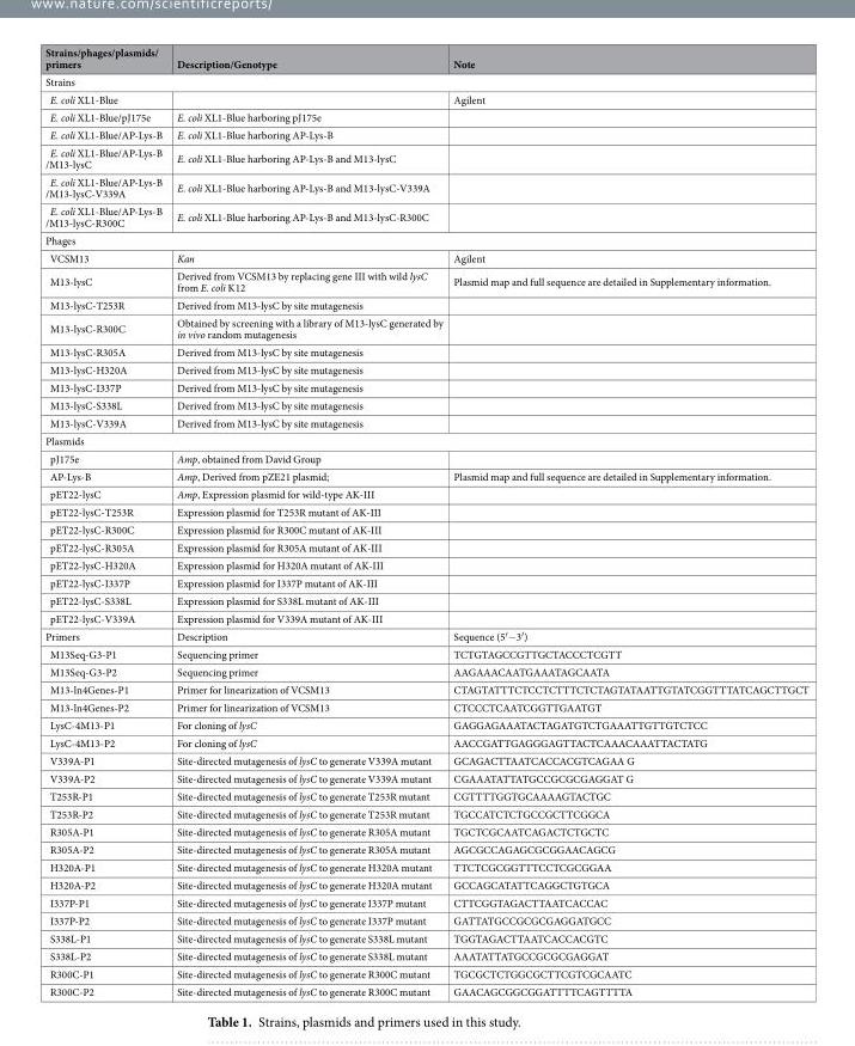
<table><thead><tr><td>Strains/phages/plasmids/ primers</td><td>Description/Genotype</td><td>Note</td></tr></thead><tbody><tr><td colspan="3">Strains</td></tr><tr><td>E. coli XL1-Blue</td><td></td><td>Agilent</td></tr><tr><td>E. coli XL1-Blue/pJ175e</td><td>E. coli XL1-Blue harboring pJ175e</td><td></td></tr><tr><td>E. coli XL1-Blue/AP-Lys-B</td><td>E. coli XL1-Blue harboring AP-Lys-B</td><td></td></tr><tr><td>E. coli XL1-Blue/AP-Lys-B /M13-lysC</td><td>E. coli XL1-Blue harboring AP-Lys-B and M13-lysC</td><td></td></tr><tr><td>E. coli XL1-Blue/AP-Lys-B /M13-lysC-V339A</td><td>E. coli XL1-Blue harboring AP-Lys-B and M13-lysC-V339A</td><td></td></tr><tr><td>E. coli XL1-Blue/AP-Lys-B /M13-lysC-R300C</td><td>E. coli XL1-Blue harboring AP-Lys-B and M13-lysC-R300C</td><td></td></tr><tr><td colspan="3">Phages</td></tr><tr><td>VCSM13</td><td>Kan</td><td>Agilent</td></tr><tr><td>M13-lysC</td><td>Derived from VCSM13 by replacing gene III with wild lysC from E. coli K12</td><td>Plasmid map and full sequence are detailed in Supplementary information.</td></tr><tr><td>M13-lysC-T253R</td><td>Derived from M13-lysC by site mutagenesis</td><td></td></tr><tr><td>M13-lysC-R300C</td><td>Obtained by screening with a library of M13-lysC generated by in vivo random mutagenesis</td><td></td></tr><tr><td>M13-lysC-R305A</td><td>Derived from M13-lysC by site mutagenesis</td><td></td></tr><tr><td>M13-lysC-H320A</td><td>Derived from M13-lysC by site mutagenesis</td><td></td></tr><tr><td>M13-lysC-I337P</td><td>Derived from M13-lysC by site mutagenesis</td><td></td></tr><tr><td>M13-lysC-S338L</td><td>Derived from M13-lysC by site mutagenesis</td><td></td></tr><tr><td>M13-lysC-V339A</td><td>Derived from M13-lysC by site mutagenesis</td><td></td></tr><tr><td colspan="3">Plasmids</td></tr><tr><td>pJ175e</td><td>Amp, obtained from David Group</td><td></td></tr><tr><td>AP-Lys-B</td><td>Amp, Derived from pZE21 plasmid;</td><td>Plasmid map and full sequence are detailed in Supplementary information.</td></tr><tr><td>pET22-lysC</td><td>Amp, Expression plasmid for wild-type AK-III</td><td></td></tr><tr><td>pET22-lysC-T253R</td><td>Expression plasmid for T253R mutant of AK-III</td><td></td></tr><tr><td>pET22-lysC-R300C</td><td>Expression plasmid for R300C mutant of AK-III</td><td></td></tr><tr><td>pET22-lysC-R305A</td><td>Expression plasmid for R305A mutant of AK-III</td><td></td></tr><tr><td>pET22-lysC-H320A</td><td>Expression plasmid for H320A mutant of AK-III</td><td></td></tr><tr><td>pET22-lysC-I337P</td><td>Expression plasmid for I337P mutant of AK-III</td><td></td></tr><tr><td>pET22-lysC-S338L</td><td>Expression plasmid for S338L mutant of AK-III</td><td></td></tr><tr><td>pET22-lysC-V339A</td><td>Expression plasmid for V339A mutant of AK-III</td><td></td></tr><tr><td>Primers</td><td>Description</td><td>Sequence (5′−3′)</td></tr><tr><td>M13Seq-G3-P1</td><td>Sequencing primer</td><td>TCTGTAGCCGTTGCTACCCTCGTT</td></tr><tr><td>M13Seq-G3-P2</td><td>Sequencing primer</td><td>AAGAAACAATGAAATAGCAATA</td></tr><tr><td>M13-ln4Genes-P1</td><td>Primer for linearization of VCSM13</td><td>CTAGTATTTCTCCTCTTTCTCTAGTATAATTGTATCGGTTTATCAGCTTGCT</td></tr><tr><td>M13-ln4Genes-P2</td><td>Primer for linearization of VCSM13</td><td>CTCCCTCAATCGGTTGAATGT</td></tr><tr><td>LysC-4M13-P1</td><td>For cloning of lysC</td><td>GAGGAGAAATACTAGATGTCTGAAATTGTTGTCTCC</td></tr><tr><td>LysC-4M13-P2</td><td>For cloning of lysC</td><td>AACCGATTGAGGGAGTTACTCAAACAAATTACTATG</td></tr><tr><td>V339A-P1</td><td>Site-directed mutagenesis of lysC to generate V339A mutant</td><td>GCAGACTTAATCACCACGTCAGAA G</td></tr><tr><td>V339A-P2</td><td>Site-directed mutagenesis of lysC to generate V339A mutant</td><td>CGAAATATTATGCCGCGCGAGGAT G</td></tr><tr><td>T253R-P1</td><td>Site-directed mutagenesis of lysC to generate T253R mutant</td><td>CGTTTTGGTGCAAAAGTACTGC</td></tr><tr><td>T253R-P2</td><td>Site-directed mutagenesis of lysC to generate T253R mutant</td><td>TGCCATCTCTGCCGCTTCGGCA</td></tr><tr><td>R305A-P1</td><td>Site-directed mutagenesis of lysC to generate R305A mutant</td><td>TGCTCGCAATCAGACTCTGCTC</td></tr><tr><td>R305A-P2</td><td>Site-directed mutagenesis of lysC to generate R305A mutant</td><td>AGCGCCAGAGCGCGGAACAGCG</td></tr><tr><td>H320A-P1</td><td>Site-directed mutagenesis of lysC to generate H320A mutant</td><td>TTCTCGCGGTTTCCTCGCGGAA</td></tr><tr><td>H320A-P2</td><td>Site-directed mutagenesis of lysC to generate H320A mutant</td><td>GCCAGCATATTCAGGCTGTGCA</td></tr><tr><td>I337P-P1</td><td>Site-directed mutagenesis of lysC to generate I337P mutant</td><td>CTTCGGTAGACTTAATCACCAC</td></tr><tr><td>I337P-P2</td><td>Site-directed mutagenesis of lysC to generate I337P mutant</td><td>GATTATGCCGCGCGAGGATGCC</td></tr><tr><td>S338L-P1</td><td>Site-directed mutagenesis of lysC to generate S338L mutant</td><td>TGGTAGACTTAATCACCACGTC</td></tr><tr><td>S338L-P2</td><td>Site-directed mutagenesis of lysC to generate S338L mutant</td><td>AAATATTATGCCGCGCGAGGAT</td></tr><tr><td>R300C-P1</td><td>Site-directed mutagenesis of lysC to generate R300C mutant</td><td>TGCGCTCTGGCGCTTCGTCGCAATC</td></tr><tr><td>R300C-P2</td><td>Site-directed mutagenesis of lysC to generate R300C mutant</td><td>GAACAGCGGCGGATTTTCAGTTTTA</td></tr></tbody></table>